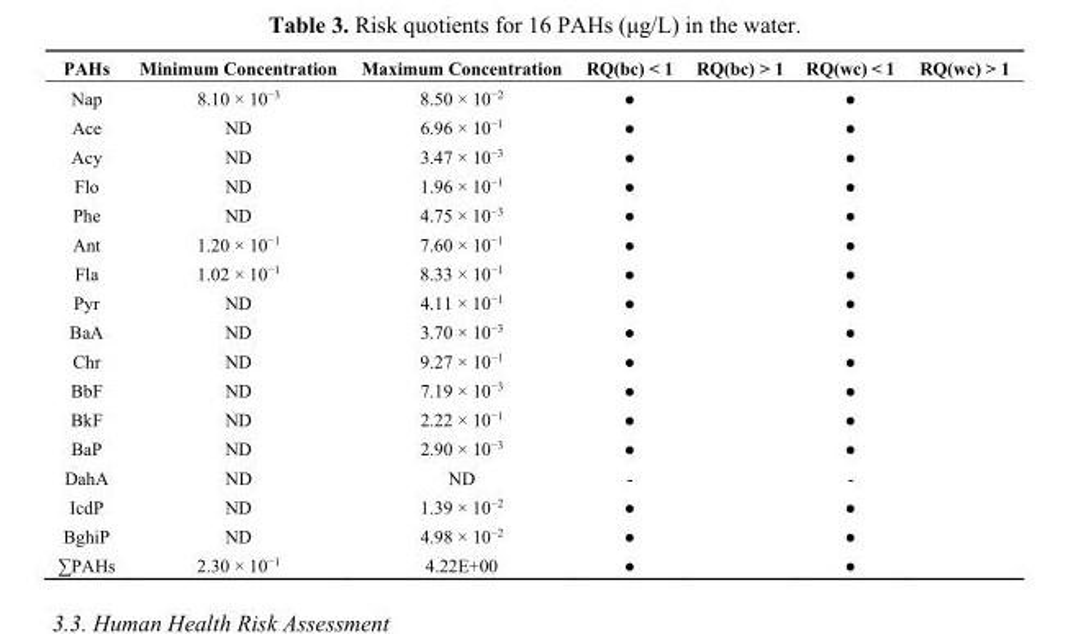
<table><thead><tr><td>PAHs</td><td>Minimum Concentration</td><td>Maximum Concentration</td><td>RQ(bc) &lt; 1</td><td>RQ(bc) &gt; 1</td><td>RQ(wc) &lt; 1</td><td>RQ(wc) &gt; 1</td></tr></thead><tbody><tr><td>Nap</td><td>8.10 × 10<sup>−3</sup></td><td>8.50 × 10<sup>−2</sup></td><td>●</td><td></td><td>●</td><td></td></tr><tr><td>Ace</td><td>ND</td><td>6.96 × 10<sup>−1</sup></td><td>●</td><td></td><td>●</td><td></td></tr><tr><td>Acy</td><td>ND</td><td>3.47 × 10<sup>−3</sup></td><td>●</td><td></td><td>●</td><td></td></tr><tr><td>Flo</td><td>ND</td><td>1.96 × 10<sup>−1</sup></td><td>●</td><td></td><td>●</td><td></td></tr><tr><td>Phe</td><td>ND</td><td>4.75 × 10<sup>−3</sup></td><td>●</td><td></td><td>●</td><td></td></tr><tr><td>Ant</td><td>1.20 × 10<sup>−1</sup></td><td>7.60 × 10<sup>−1</sup></td><td>●</td><td></td><td>●</td><td></td></tr><tr><td>Fla</td><td>1.02 × 10<sup>−1</sup></td><td>8.33 × 10<sup>−1</sup></td><td>●</td><td></td><td>●</td><td></td></tr><tr><td>Pyr</td><td>ND</td><td>4.11 × 10<sup>−1</sup></td><td>●</td><td></td><td>●</td><td></td></tr><tr><td>BaA</td><td>ND</td><td>3.70 × 10<sup>−3</sup></td><td>●</td><td></td><td>●</td><td></td></tr><tr><td>Chr</td><td>ND</td><td>9.27 × 10<sup>−1</sup></td><td>●</td><td></td><td>●</td><td></td></tr><tr><td>BbF</td><td>ND</td><td>7.19 × 10<sup>−3</sup></td><td>●</td><td></td><td>●</td><td></td></tr><tr><td>BkF</td><td>ND</td><td>2.22 × 10<sup>−1</sup></td><td>●</td><td></td><td>●</td><td></td></tr><tr><td>BaP</td><td>ND</td><td>2.90 × 10<sup>−3</sup></td><td>●</td><td></td><td>●</td><td></td></tr><tr><td>DahA</td><td>ND</td><td>ND</td><td>-</td><td></td><td>-</td><td></td></tr><tr><td>IcdP</td><td>ND</td><td>1.39 × 10<sup>−2</sup></td><td>●</td><td></td><td>●</td><td></td></tr><tr><td>BghiP</td><td>ND</td><td>4.98 × 10<sup>−2</sup></td><td>●</td><td></td><td>●</td><td></td></tr><tr><td>∑PAHs</td><td>2.30 × 10<sup>−1</sup></td><td>4.22E+00</td><td>●</td><td></td><td>●</td><td></td></tr></tbody></table>